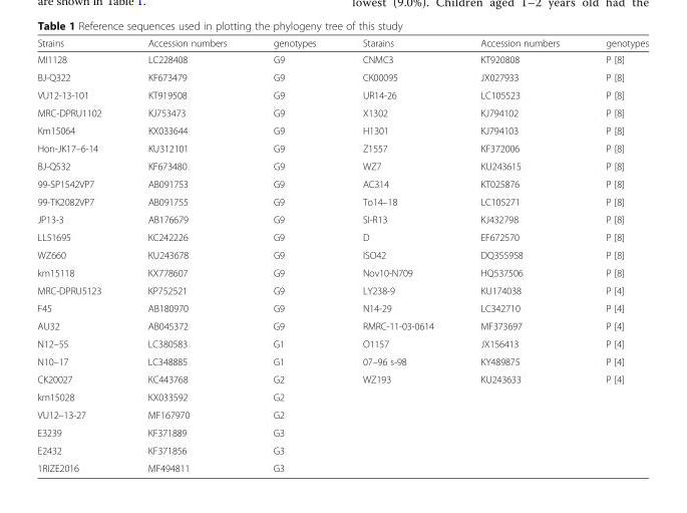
<table><thead><tr><td>Strains</td><td>Accession numbers</td><td>genotypes</td><td>Starains</td><td>Accession numbers</td><td>genotypes</td></tr></thead><tbody><tr><td>MI1128</td><td>LC228408</td><td>G9</td><td>CNMC3</td><td>KT920808</td><td>P [8]</td></tr><tr><td>BJ-Q322</td><td>KF673479</td><td>G9</td><td>CK00095</td><td>JX027933</td><td>P [8]</td></tr><tr><td>VU12-13-101</td><td>KT919508</td><td>G9</td><td>UR14-26</td><td>LC105523</td><td>P [8]</td></tr><tr><td>MRC-DPRU1102</td><td>KJ753473</td><td>G9</td><td>X1302</td><td>KJ794102</td><td>P [8]</td></tr><tr><td>Km15064</td><td>KX033644</td><td>G9</td><td>H1301</td><td>KJ794103</td><td>P [8]</td></tr><tr><td>Hon-JK17–6-14</td><td>KU312101</td><td>G9</td><td>Z1557</td><td>KF372006</td><td>P [8]</td></tr><tr><td>BJ-Q532</td><td>KF673480</td><td>G9</td><td>WZ7</td><td>KU243615</td><td>P [8]</td></tr><tr><td>99-SP1542VP7</td><td>AB091753</td><td>G9</td><td>AC314</td><td>KT025876</td><td>P [8]</td></tr><tr><td>99-TK2082VP7</td><td>AB091755</td><td>G9</td><td>To14–18</td><td>LC105271</td><td>P [8]</td></tr><tr><td>JP13-3</td><td>AB176679</td><td>G9</td><td>SI-R13</td><td>KJ432798</td><td>P [8]</td></tr><tr><td>LL51695</td><td>KC242226</td><td>G9</td><td>D</td><td>EF672570</td><td>P [8]</td></tr><tr><td>WZ660</td><td>KU243678</td><td>G9</td><td>ISO42</td><td>DQ355958</td><td>P [8]</td></tr><tr><td>km15118</td><td>KX778607</td><td>G9</td><td>Nov10-N709</td><td>HQ537506</td><td>P [8]</td></tr><tr><td>MRC-DPRU5123</td><td>KP752521</td><td>G9</td><td>LY238-9</td><td>KU174038</td><td>P [4]</td></tr><tr><td>F45</td><td>AB180970</td><td>G9</td><td>N14-29</td><td>LC342710</td><td>P [4]</td></tr><tr><td>AU32</td><td>AB045372</td><td>G9</td><td>RMRC-11-03-0614</td><td>MF373697</td><td>P [4]</td></tr><tr><td>N12–55</td><td>LC380583</td><td>G1</td><td>O1157</td><td>JX156413</td><td>P [4]</td></tr><tr><td>N10–17</td><td>LC348885</td><td>G1</td><td>07–96 s-98</td><td>KY489875</td><td>P [4]</td></tr><tr><td>CK20027</td><td>KC443768</td><td>G2</td><td>WZ193</td><td>KU243633</td><td>P [4]</td></tr><tr><td>km15028</td><td>KX033592</td><td>G2</td><td></td><td></td><td></td></tr><tr><td>VU12–13-27</td><td>MF167970</td><td>G2</td><td></td><td></td><td></td></tr><tr><td>E3239</td><td>KF371889</td><td>G3</td><td></td><td></td><td></td></tr><tr><td>E2432</td><td>KF371856</td><td>G3</td><td></td><td></td><td></td></tr><tr><td>1RIZE2016</td><td>MF494811</td><td>G3</td><td></td><td></td><td></td></tr></tbody></table>